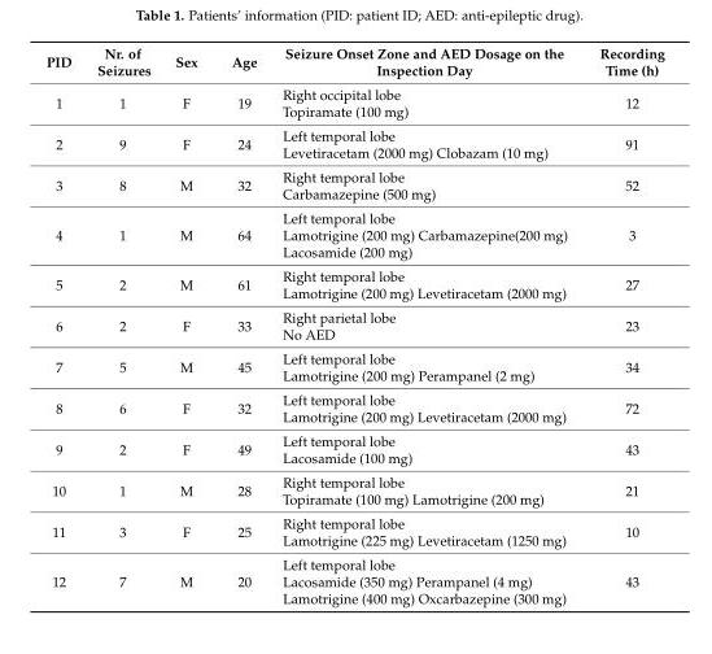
<table><thead><tr><td>PID</td><td>Nr. of Seizures</td><td>Sex</td><td>Age</td><td>Seizure Onset Zone and AED Dosage on the Inspection Day</td><td>Recording Time (h)</td></tr></thead><tbody><tr><td>1</td><td>1</td><td>F</td><td>19</td><td>Right occipital lobe Topiramate (100 mg)</td><td>12</td></tr><tr><td>2</td><td>9</td><td>F</td><td>24</td><td>Left temporal lobe Levetiracetam (2000 mg) Clobazam (10 mg)</td><td>91</td></tr><tr><td>3</td><td>8</td><td>M</td><td>32</td><td>Right temporal lobe Carbamazepine (500 mg)</td><td>52</td></tr><tr><td>4</td><td>1</td><td>M</td><td>64</td><td>Left temporal lobe Lamotrigine (200 mg) Carbamazepine(200 mg) Lacosamide (200 mg)</td><td>3</td></tr><tr><td>5</td><td>2</td><td>M</td><td>61</td><td>Right temporal lobe Lamotrigine (200 mg) Levetiracetam (2000 mg)</td><td>27</td></tr><tr><td>6</td><td>2</td><td>F</td><td>33</td><td>Right parietal lobe No AED</td><td>23</td></tr><tr><td>7</td><td>5</td><td>M</td><td>45</td><td>Left temporal lobe Lamotrigine (200 mg) Perampanel (2 mg)</td><td>34</td></tr><tr><td>8</td><td>6</td><td>F</td><td>32</td><td>Left temporal lobe Lamotrigine (200 mg) Levetiracetam (2000 mg)</td><td>72</td></tr><tr><td>9</td><td>2</td><td>F</td><td>49</td><td>Left temporal lobe Lacosamide (100 mg)</td><td>43</td></tr><tr><td>10</td><td>1</td><td>M</td><td>28</td><td>Right temporal lobe Topiramate (100 mg) Lamotrigine (200 mg)</td><td>21</td></tr><tr><td>11</td><td>3</td><td>F</td><td>25</td><td>Right temporal lobe Lamotrigine (225 mg) Levetiracetam (1250 mg)</td><td>10</td></tr><tr><td>12</td><td>7</td><td>M</td><td>20</td><td>Left temporal lobe Lacosamide (350 mg) Perampanel (4 mg) Lamotrigine (400 mg) Oxcarbazepine (300 mg)</td><td>43</td></tr></tbody></table>